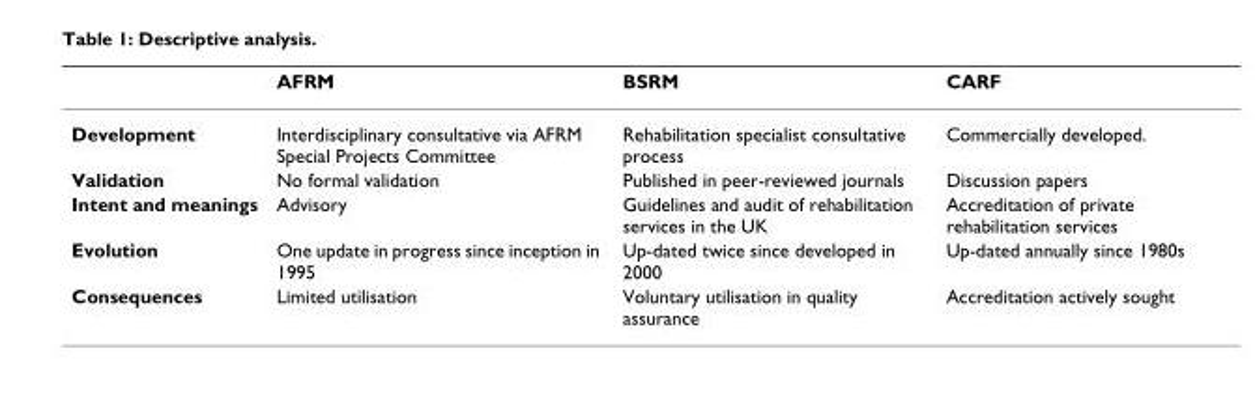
<table><thead><tr><td></td><td>AFRM</td><td>BSRM</td><td>CARF</td></tr></thead><tbody><tr><td>Development</td><td>Interdisciplinary consultative via AFRM Special Projects Committee</td><td>Rehabilitation specialist consultative process</td><td>Commercially developed.</td></tr><tr><td>Validation</td><td>No formal validation</td><td>Published in peer-reviewed journals</td><td>Discussion papers</td></tr><tr><td>Intent and meanings</td><td>Advisory</td><td>Guidelines and audit of rehabilitation services in the UK</td><td>Accreditation of private rehabilitation services</td></tr><tr><td>Evolution</td><td>One update in progress since inception in 1995</td><td>Up-dated twice since developed in 2000</td><td>Up-dated annually since 1980s</td></tr><tr><td>Consequences</td><td>Limited utilisation</td><td>Voluntary utilisation in quality assurance</td><td>Accreditation actively sought</td></tr></tbody></table>